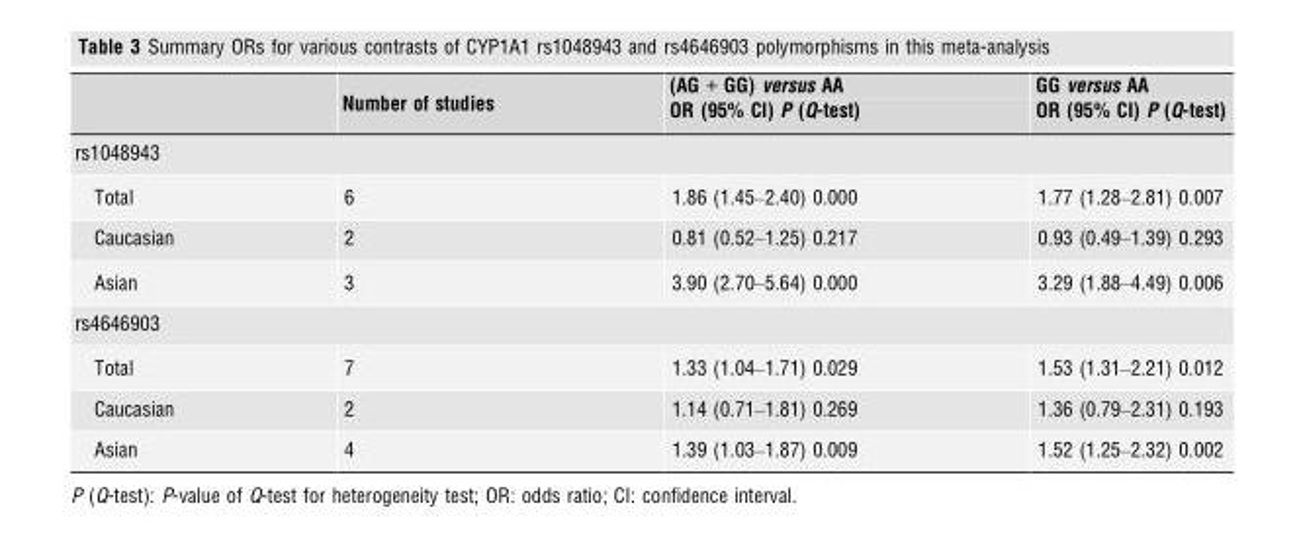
<table><thead><tr><td rowspan="2"></td><td rowspan="2">Number of studies</td><td rowspan="2">(AG + GG) versus AA OR (95% CI) P (Q-test)</td><td rowspan="2">GG versus AA OR (95% CI) P (Q-test)</td></tr><tr></tr></thead><tbody><tr><td colspan="4">rs1048943</td></tr><tr><td>Total</td><td>6</td><td>1.86 (1.45–2.40) 0.000</td><td>1.77 (1.28–2.81) 0.007</td></tr><tr><td>Caucasian</td><td>2</td><td>0.81 (0.52–1.25) 0.217</td><td>0.93 (0.49–1.39) 0.293</td></tr><tr><td>Asian</td><td>3</td><td>3.90 (2.70–5.64) 0.000</td><td>3.29 (1.88–4.49) 0.006</td></tr><tr><td colspan="4">rs4646903</td></tr><tr><td>Total</td><td>7</td><td>1.33 (1.04–1.71) 0.029</td><td>1.53 (1.31–2.21) 0.012</td></tr><tr><td>Caucasian</td><td>2</td><td>1.14 (0.71–1.81) 0.269</td><td>1.36 (0.79–2.31) 0.193</td></tr><tr><td>Asian</td><td>4</td><td>1.39 (1.03–1.87) 0.009</td><td>1.52 (1.25–2.32) 0.002</td></tr></tbody></table>